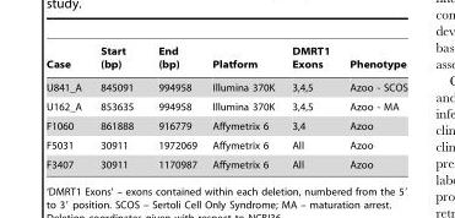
<table><thead><tr><td>Case</td><td>Start (bp)</td><td>End (bp)</td><td>Platform</td><td>DMRT1 Exons</td><td>Phenotype</td></tr></thead><tbody><tr><td>U841_A</td><td>845091</td><td>994958</td><td>Illumina 370K</td><td>3,4,5</td><td>Azoo - SCOS</td></tr><tr><td>U162_A</td><td>853635</td><td>994958</td><td>Illumina 370K</td><td>3,4,5</td><td>Azoo - MA</td></tr><tr><td>F1060</td><td>861888</td><td>916779</td><td>Affymetrix 6</td><td>3,4</td><td>Azoo</td></tr><tr><td>F5031</td><td>30911</td><td>1972069</td><td>Affymetrix 6</td><td>All</td><td>Azoo</td></tr><tr><td>F3407</td><td>30911</td><td>1170987</td><td>Affymetrix 6</td><td>All</td><td>Azoo</td></tr></tbody></table>